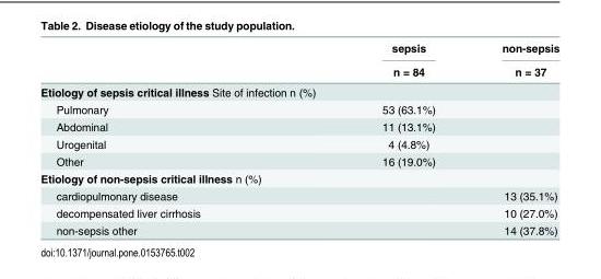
<table><thead><tr><td rowspan="2"></td><td rowspan="2">sepsis n = 84</td><td rowspan="2">non-sepsis n = 37</td></tr><tr></tr></thead><tbody><tr><td colspan="3">Etiology of sepsis critical illness Site of infection n (%)</td></tr><tr><td>Pulmonary</td><td>53 (63.1%)</td><td></td></tr><tr><td>Abdominal</td><td>11 (13.1%)</td><td></td></tr><tr><td>Urogenital</td><td>4 (4.8%)</td><td></td></tr><tr><td>Other</td><td>16 (19.0%)</td><td></td></tr><tr><td colspan="3">Etiology of non-sepsis critical illness n (%)</td></tr><tr><td>cardiopulmonary disease</td><td></td><td>13 (35.1%)</td></tr><tr><td>decompensated liver cirrhosis</td><td></td><td>10 (27.0%)</td></tr><tr><td>non-sepsis other</td><td></td><td>14 (37.8%)</td></tr></tbody></table>